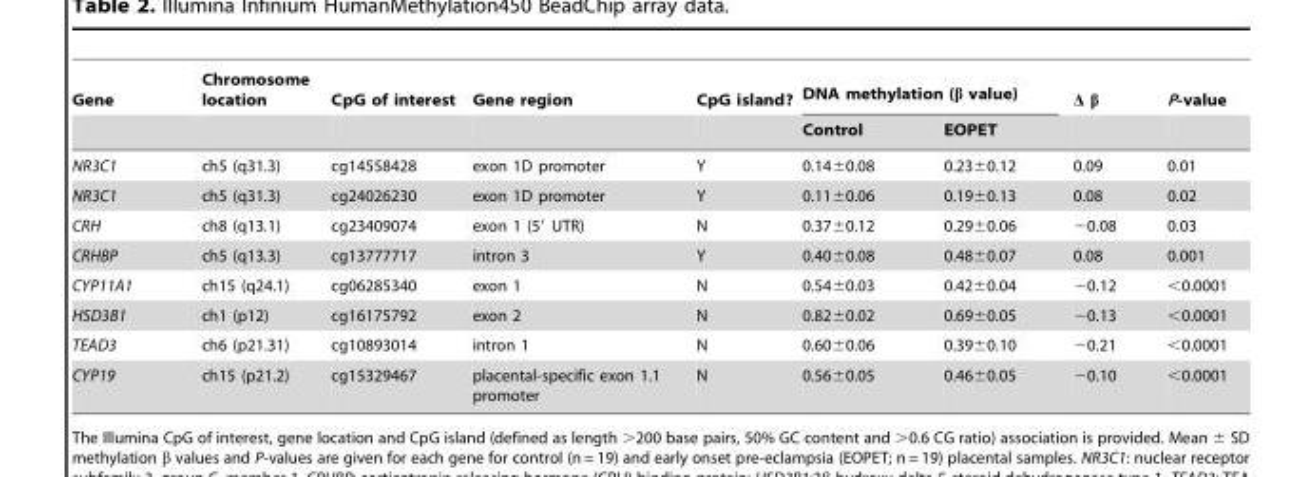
<table><thead><tr><td rowspan="2">Gene</td><td rowspan="2">Chromosome location</td><td rowspan="2">CpG of interest</td><td rowspan="2">Gene region</td><td rowspan="2">CpG island?</td><td colspan="2">DNA methylation (β value)</td><td rowspan="2">Δ β</td><td rowspan="2">P-value</td></tr><tr><td>Control</td><td>EOPET</td></tr></thead><tbody><tr><td>NR3C1</td><td>ch5 (q31.3)</td><td>cg14558428</td><td>exon 1D promoter</td><td>Y</td><td>0.14±0.08</td><td>0.23±0.12</td><td>0.09</td><td>0.01</td></tr><tr><td>NR3C1</td><td>ch5 (q31.3)</td><td>cg24026230</td><td>exon 1D promoter</td><td>Y</td><td>0.11±0.06</td><td>0.19±0.13</td><td>0.08</td><td>0.02</td></tr><tr><td>CRH</td><td>ch8 (q13.1)</td><td>cg23409074</td><td>exon 1 (5′ UTR)</td><td>N</td><td>0.37±0.12</td><td>0.29±0.06</td><td>−0.08</td><td>0.03</td></tr><tr><td>CRHBP</td><td>ch5 (q13.3)</td><td>cg13777717</td><td>intron 3</td><td>Y</td><td>0.40±0.08</td><td>0.48±0.07</td><td>0.08</td><td>0.001</td></tr><tr><td>CYP11A1</td><td>ch15 (q24.1)</td><td>cg06285340</td><td>exon 1</td><td>N</td><td>0.54±0.03</td><td>0.42±0.04</td><td>−0.12</td><td>&lt;0.0001</td></tr><tr><td>HSD3B1</td><td>ch1 (p12)</td><td>cg16175792</td><td>exon 2</td><td>N</td><td>0.82±0.02</td><td>0.69±0.05</td><td>−0.13</td><td>&lt;0.0001</td></tr><tr><td>TEAD3</td><td>ch6 (p21.31)</td><td>cg10893014</td><td>intron 1</td><td>N</td><td>0.60±0.06</td><td>0.39±0.10</td><td>−0.21</td><td>&lt;0.0001</td></tr><tr><td>CYP19</td><td>ch15 (p21.2)</td><td>cg15329467</td><td>placental-specific exon 1.1 promoter</td><td>N</td><td>0.56±0.05</td><td>0.46±0.05</td><td>−0.10</td><td>&lt;0.0001</td></tr></tbody></table>